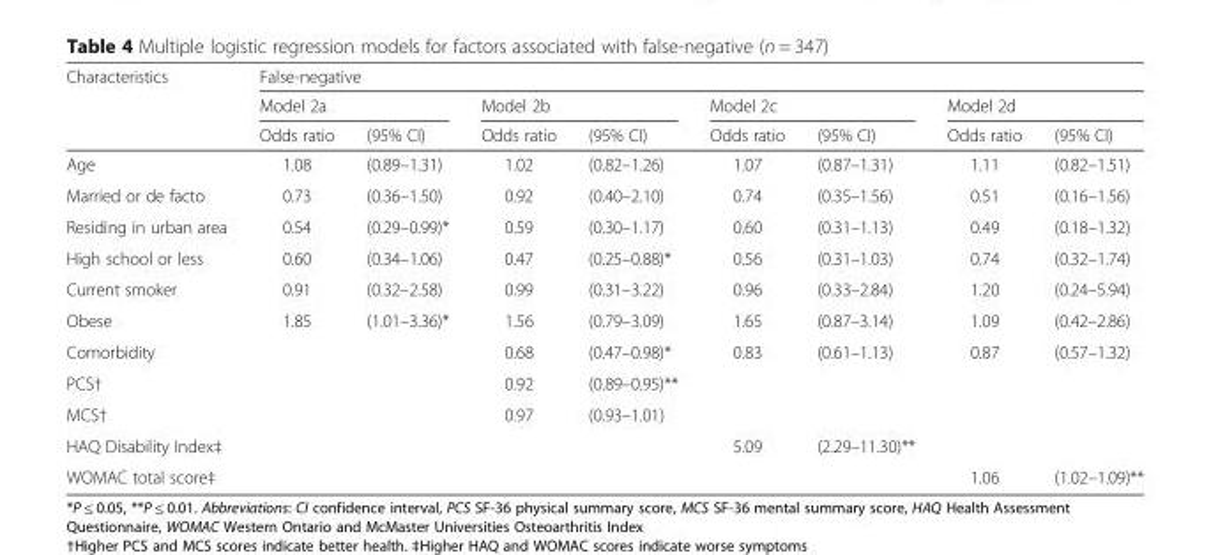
<table><thead><tr><td rowspan="3">Characteristics</td><td colspan="8">False-negative</td></tr><tr><td colspan="2">Model 2a</td><td colspan="2">Model 2b</td><td colspan="2">Model 2c</td><td colspan="2">Model 2d</td></tr><tr><td>Odds ratio</td><td>(95% CI)</td><td>Odds ratio</td><td>(95% CI)</td><td>Odds ratio</td><td>(95% CI)</td><td>Odds ratio</td><td>(95% CI)</td></tr></thead><tbody><tr><td>Age</td><td>1.08</td><td>(0.89–1.31)</td><td>1.02</td><td>(0.82–1.26)</td><td>1.07</td><td>(0.87–1.31)</td><td>1.11</td><td>(0.82–1.51)</td></tr><tr><td>Married or de facto</td><td>0.73</td><td>(0.36–1.50)</td><td>0.92</td><td>(0.40–2.10)</td><td>0.74</td><td>(0.35–1.56)</td><td>0.51</td><td>(0.16–1.56)</td></tr><tr><td>Residing in urban area</td><td>0.54</td><td>(0.29–0.99)*</td><td>0.59</td><td>(0.30–1.17)</td><td>0.60</td><td>(0.31–1.13)</td><td>0.49</td><td>(0.18–1.32)</td></tr><tr><td>High school or less</td><td>0.60</td><td>(0.34–1.06)</td><td>0.47</td><td>(0.25–0.88)*</td><td>0.56</td><td>(0.31–1.03)</td><td>0.74</td><td>(0.32–1.74)</td></tr><tr><td>Current smoker</td><td>0.91</td><td>(0.32–2.58)</td><td>0.99</td><td>(0.31–3.22)</td><td>0.96</td><td>(0.33–2.84)</td><td>1.20</td><td>(0.24–5.94)</td></tr><tr><td>Obese</td><td>1.85</td><td>(1.01–3.36)*</td><td>1.56</td><td>(0.79–3.09)</td><td>1.65</td><td>(0.87–3.14)</td><td>1.09</td><td>(0.42–2.86)</td></tr><tr><td>Comorbidity</td><td></td><td></td><td>0.68</td><td>(0.47–0.98)*</td><td>0.83</td><td>(0.61–1.13)</td><td>0.87</td><td>(0.57–1.32)</td></tr><tr><td>PCS†</td><td></td><td></td><td>0.92</td><td>(0.89–0.95)**</td><td></td><td></td><td></td><td></td></tr><tr><td>MCS†</td><td></td><td></td><td>0.97</td><td>(0.93–1.01)</td><td></td><td></td><td></td><td></td></tr><tr><td>HAQ Disability Index‡</td><td></td><td></td><td></td><td></td><td>5.09</td><td>(2.29–11.30)**</td><td></td><td></td></tr><tr><td>WOMAC total score‡</td><td></td><td></td><td></td><td></td><td></td><td></td><td>1.06</td><td>(1.02–1.09)**</td></tr></tbody></table>